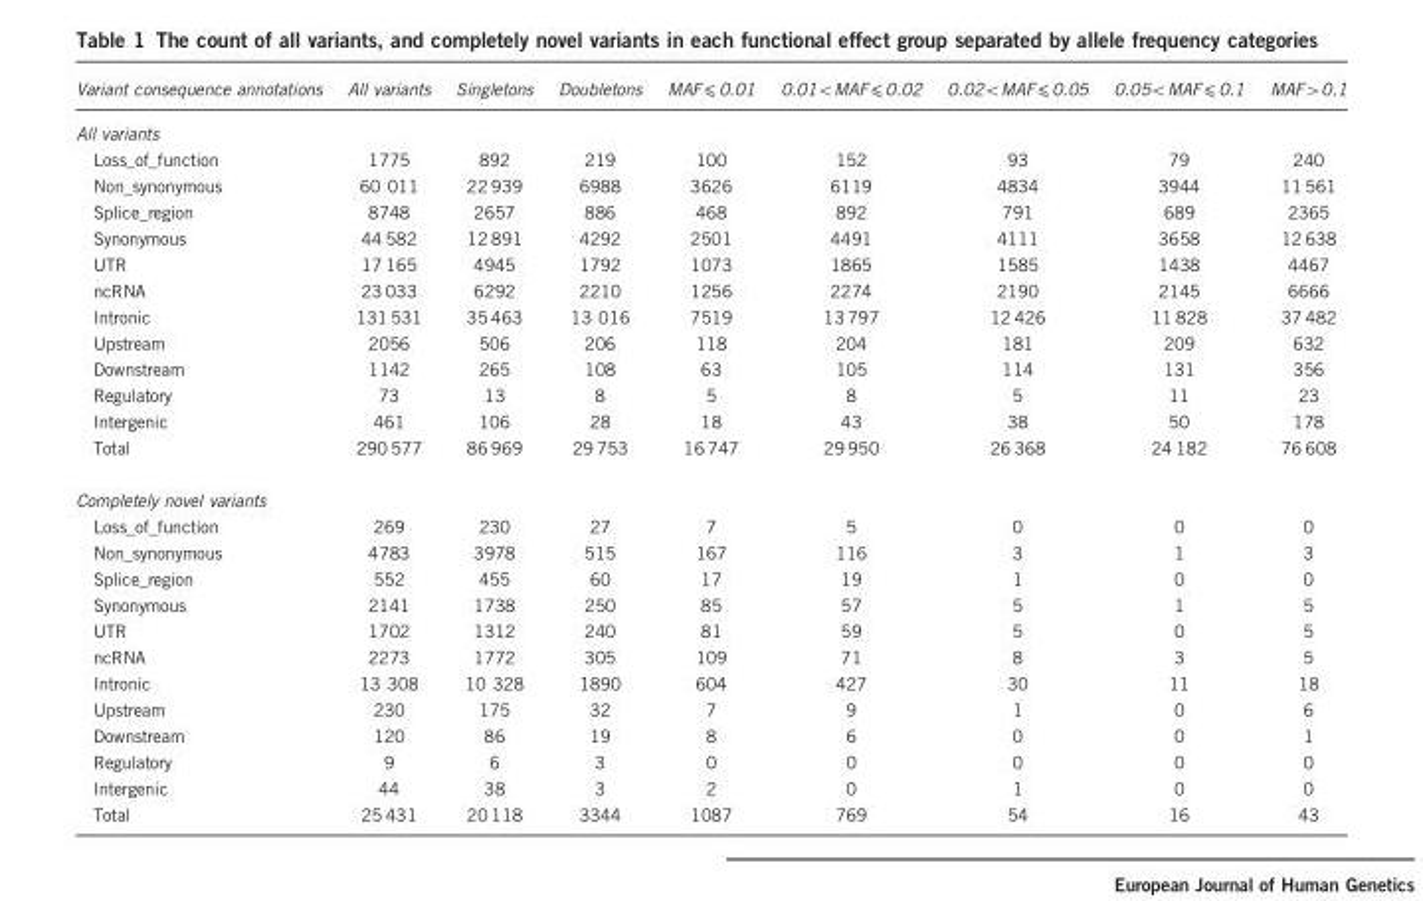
<table><thead><tr><td>Variant consequence annotations</td><td>All variants</td><td>Singletons</td><td>Doubletons</td><td>MAF ⩽ 0.01</td><td>0.01&lt;MAF ⩽ 0.02</td><td>0.02&lt;MAF ⩽ 0.05</td><td>0.05&lt;MAF ⩽ 0.1</td><td>MAF&gt;0.1</td></tr></thead><tbody><tr><td colspan="9">All variants</td></tr><tr><td>Loss_of_function</td><td>1775</td><td>892</td><td>219</td><td>100</td><td>152</td><td>93</td><td>79</td><td>240</td></tr><tr><td>Non_synonymous</td><td>60 011</td><td>22 939</td><td>6988</td><td>3626</td><td>6119</td><td>4834</td><td>3944</td><td>11 561</td></tr><tr><td>Splice_region</td><td>8748</td><td>2657</td><td>886</td><td>468</td><td>892</td><td>791</td><td>689</td><td>2365</td></tr><tr><td>Synonymous</td><td>44 582</td><td>12 891</td><td>4292</td><td>2501</td><td>4491</td><td>4111</td><td>3658</td><td>12 638</td></tr><tr><td>UTR</td><td>17 165</td><td>4945</td><td>1792</td><td>1073</td><td>1865</td><td>1585</td><td>1438</td><td>4467</td></tr><tr><td>ncRNA</td><td>23 033</td><td>6292</td><td>2210</td><td>1256</td><td>2274</td><td>2190</td><td>2145</td><td>6666</td></tr><tr><td>Intronic</td><td>131 531</td><td>35 463</td><td>13 016</td><td>7519</td><td>13 797</td><td>12 426</td><td>11 828</td><td>37 482</td></tr><tr><td>Upstream</td><td>2056</td><td>506</td><td>206</td><td>118</td><td>204</td><td>181</td><td>209</td><td>632</td></tr><tr><td>Downstream</td><td>1142</td><td>265</td><td>108</td><td>63</td><td>105</td><td>114</td><td>131</td><td>356</td></tr><tr><td>Regulatory</td><td>73</td><td>13</td><td>8</td><td>5</td><td>8</td><td>5</td><td>11</td><td>23</td></tr><tr><td>Intergenic</td><td>461</td><td>106</td><td>28</td><td>18</td><td>43</td><td>38</td><td>50</td><td>178</td></tr><tr><td>Total</td><td>290 577</td><td>86 969</td><td>29 753</td><td>16 747</td><td>29 950</td><td>26 368</td><td>24 182</td><td>76 608</td></tr><tr><td colspan="9">Completely novel variants</td></tr><tr><td>Loss_of_function</td><td>269</td><td>230</td><td>27</td><td>7</td><td>5</td><td>0</td><td>0</td><td>0</td></tr><tr><td>Non_synonymous</td><td>4783</td><td>3978</td><td>515</td><td>167</td><td>116</td><td>3</td><td>1</td><td>3</td></tr><tr><td>Splice_region</td><td>552</td><td>455</td><td>60</td><td>17</td><td>19</td><td>1</td><td>0</td><td>0</td></tr><tr><td>Synonymous</td><td>2141</td><td>1738</td><td>250</td><td>85</td><td>57</td><td>5</td><td>1</td><td>5</td></tr><tr><td>UTR</td><td>1702</td><td>1312</td><td>240</td><td>81</td><td>59</td><td>5</td><td>0</td><td>5</td></tr><tr><td>ncRNA</td><td>2273</td><td>1772</td><td>305</td><td>109</td><td>71</td><td>8</td><td>3</td><td>5</td></tr><tr><td>Intronic</td><td>13 308</td><td>10 328</td><td>1890</td><td>604</td><td>427</td><td>30</td><td>11</td><td>18</td></tr><tr><td>Upstream</td><td>230</td><td>175</td><td>32</td><td>7</td><td>9</td><td>1</td><td>0</td><td>6</td></tr><tr><td>Downstream</td><td>120</td><td>86</td><td>19</td><td>8</td><td>6</td><td>0</td><td>0</td><td>1</td></tr><tr><td>Regulatory</td><td>9</td><td>6</td><td>3</td><td>0</td><td>0</td><td>0</td><td>0</td><td>0</td></tr><tr><td>Intergenic</td><td>44</td><td>38</td><td>3</td><td>2</td><td>0</td><td>1</td><td>0</td><td>0</td></tr><tr><td>Total</td><td>25 431</td><td>20 118</td><td>3344</td><td>1087</td><td>769</td><td>54</td><td>16</td><td>43</td></tr></tbody></table>